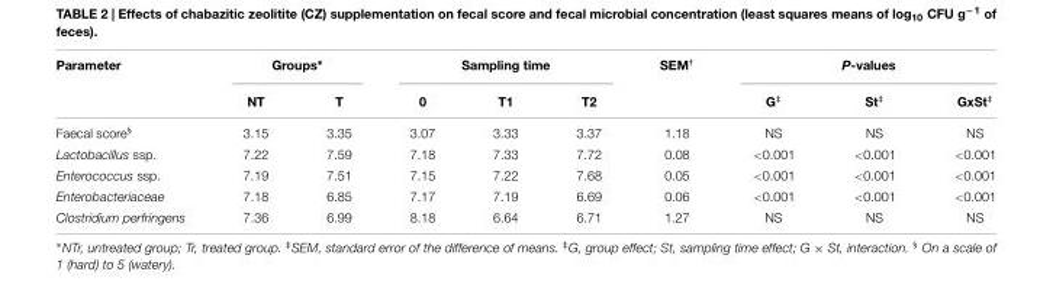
<table><thead><tr><td rowspan="2">Parameter</td><td colspan="2">Groups∗</td><td colspan="3">Sampling time</td><td rowspan="2">SEM<sup>†</sup></td><td colspan="3">P-values</td></tr><tr><td>NT</td><td>T</td><td>0</td><td>T1</td><td>T2</td><td>G<sup>‡</sup></td><td>St<sup>‡</sup></td><td>GxSt<sup>‡</sup></td></tr></thead><tbody><tr><td>Faecal score<sup>§</sup></td><td>3.15</td><td>3.35</td><td>3.07</td><td>3.33</td><td>3.37</td><td>1.18</td><td>NS</td><td>NS</td><td>NS</td></tr><tr><td>Lactobacillus ssp.</td><td>7.22</td><td>7.59</td><td>7.18</td><td>7.33</td><td>7.72</td><td>0.08</td><td>&lt;0.001</td><td>&lt;0.001</td><td>&lt;0.001</td></tr><tr><td>Enterococcus ssp.</td><td>7.19</td><td>7.51</td><td>7.15</td><td>7.22</td><td>7.68</td><td>0.05</td><td>&lt;0.001</td><td>&lt;0.001</td><td>&lt;0.001</td></tr><tr><td>Enterobacteriaceae</td><td>7.18</td><td>6.85</td><td>7.17</td><td>7.19</td><td>6.69</td><td>0.06</td><td>&lt;0.001</td><td>&lt;0.001</td><td>&lt;0.001</td></tr><tr><td>Clostridium perfringens</td><td>7.36</td><td>6.99</td><td>8.18</td><td>6.64</td><td>6.71</td><td>1.27</td><td>NS</td><td>NS</td><td>NS</td></tr></tbody></table>